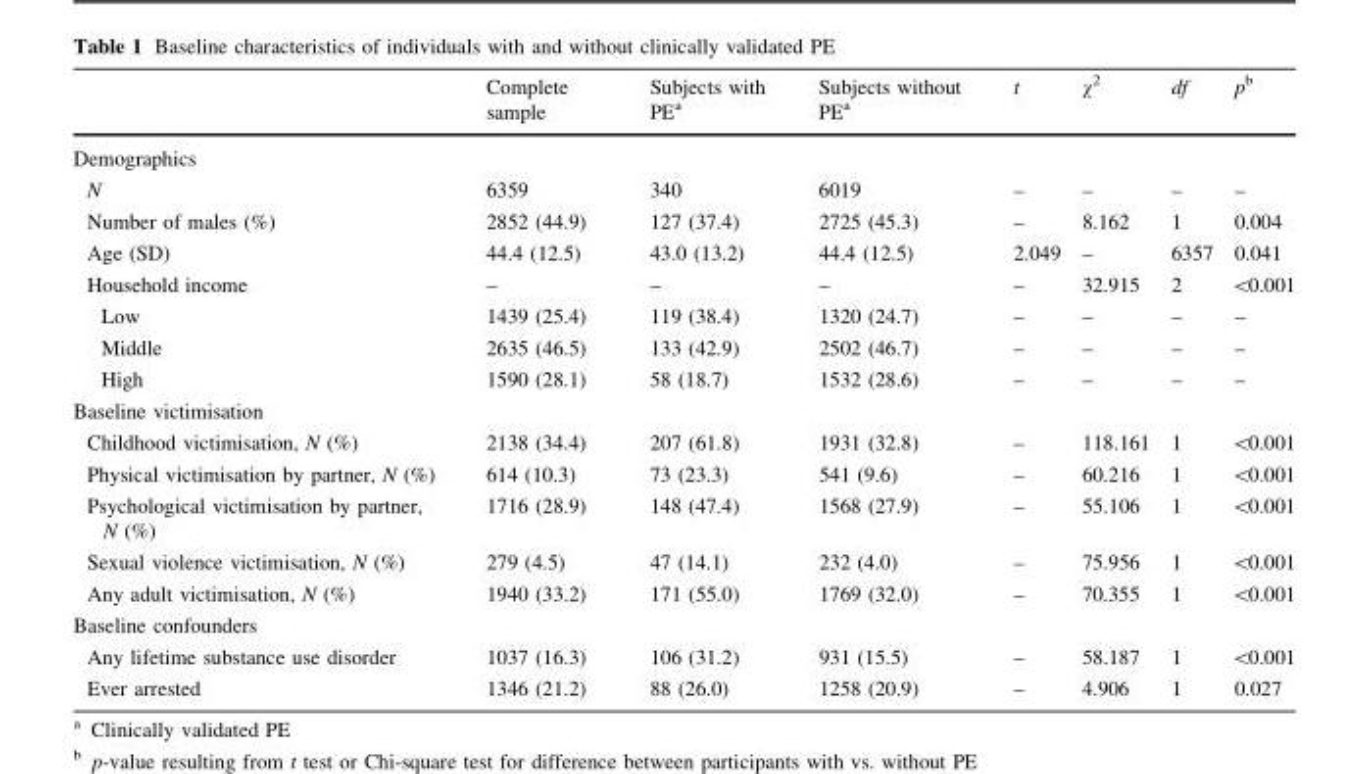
<table><thead><tr><td></td><td>Complete sample</td><td>Subjects with PE<sup>a</sup></td><td>Subjects without PE<sup>a</sup></td><td>t</td><td>χ<sup>2</sup></td><td>df</td><td>p<sup>b</sup></td></tr></thead><tbody><tr><td colspan="8">Demographics</td></tr><tr><td>N</td><td>6359</td><td>340</td><td>6019</td><td>–</td><td>–</td><td>–</td><td>–</td></tr><tr><td>Number of males (%)</td><td>2852 (44.9)</td><td>127 (37.4)</td><td>2725 (45.3)</td><td>–</td><td>8.162</td><td>1</td><td>0.004</td></tr><tr><td>Age (SD)</td><td>44.4 (12.5)</td><td>43.0 (13.2)</td><td>44.4 (12.5)</td><td>2.049</td><td>–</td><td>6357</td><td>0.041</td></tr><tr><td>Household income</td><td>–</td><td>–</td><td>–</td><td>–</td><td>32.915</td><td>2</td><td>&lt;0.001</td></tr><tr><td>Low</td><td>1439 (25.4)</td><td>119 (38.4)</td><td>1320 (24.7)</td><td>–</td><td>–</td><td>–</td><td>–</td></tr><tr><td>Middle</td><td>2635 (46.5)</td><td>133 (42.9)</td><td>2502 (46.7)</td><td>–</td><td>–</td><td>–</td><td>–</td></tr><tr><td>High</td><td>1590 (28.1)</td><td>58 (18.7)</td><td>1532 (28.6)</td><td>–</td><td>–</td><td>–</td><td>–</td></tr><tr><td colspan="8">Baseline victimisation</td></tr><tr><td>Childhood victimisation, N (%)</td><td>2138 (34.4)</td><td>207 (61.8)</td><td>1931 (32.8)</td><td>–</td><td>118.161</td><td>1</td><td>&lt;0.001</td></tr><tr><td>Physical victimisation by partner, N (%)</td><td>614 (10.3)</td><td>73 (23.3)</td><td>541 (9.6)</td><td>–</td><td>60.216</td><td>1</td><td>&lt;0.001</td></tr><tr><td>Psychological victimisation by partner, N (%)</td><td>1716 (28.9)</td><td>148 (47.4)</td><td>1568 (27.9)</td><td>–</td><td>55.106</td><td>1</td><td>&lt;0.001</td></tr><tr><td>Sexual violence victimisation, N (%)</td><td>279 (4.5)</td><td>47 (14.1)</td><td>232 (4.0)</td><td>–</td><td>75.956</td><td>1</td><td>&lt;0.001</td></tr><tr><td>Any adult victimisation, N (%)</td><td>1940 (33.2)</td><td>171 (55.0)</td><td>1769 (32.0)</td><td>–</td><td>70.355</td><td>1</td><td>&lt;0.001</td></tr><tr><td colspan="8">Baseline confounders</td></tr><tr><td>Any lifetime substance use disorder</td><td>1037 (16.3)</td><td>106 (31.2)</td><td>931 (15.5)</td><td>–</td><td>58.187</td><td>1</td><td>&lt;0.001</td></tr><tr><td>Ever arrested</td><td>1346 (21.2)</td><td>88 (26.0)</td><td>1258 (20.9)</td><td>–</td><td>4.906</td><td>1</td><td>0.027</td></tr></tbody></table>